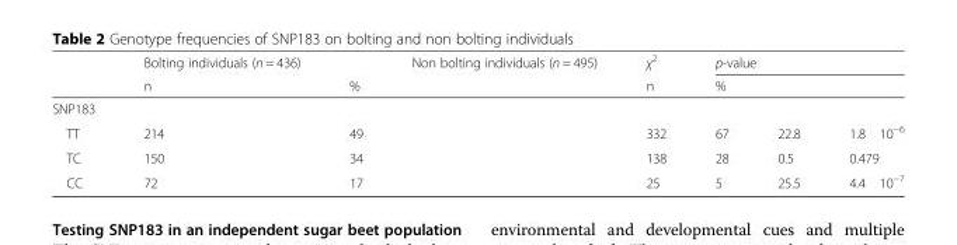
<table><thead><tr><td rowspan="2"></td><td rowspan="2">Bolting individuals (n = 436) n</td><td rowspan="2">%</td><td rowspan="2">Non bolting individuals (n = 495)</td><td rowspan="2">χ<sup>2</sup> n</td><td colspan="3">p-value</td></tr><tr><td>%</td><td></td><td></td></tr></thead><tbody><tr><td colspan="8">SNP183</td></tr><tr><td>TT</td><td>214</td><td>49</td><td></td><td>332</td><td>67</td><td>22.8</td><td>1.8 10−6</td></tr><tr><td>TC</td><td>150</td><td>34</td><td></td><td>138</td><td>28</td><td>0.5</td><td>0.479</td></tr><tr><td>CC</td><td>72</td><td>17</td><td></td><td>25</td><td>5</td><td>25.5</td><td>4.4 10−7</td></tr></tbody></table>